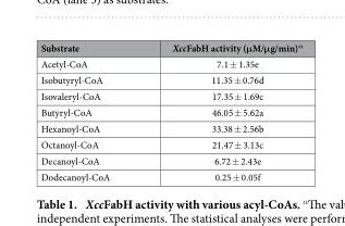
<table><thead><tr><td>Substrate</td><td>XccFabH activity (μM/μg/min)α</td></tr></thead><tbody><tr><td>Acetyl-CoA</td><td>7.1 ± 1.35e</td></tr><tr><td>Isobutyryl-CoA</td><td>11.35 ± 0.76d</td></tr><tr><td>Isovaleryl-CoA</td><td>17.35 ± 1.69c</td></tr><tr><td>Butyryl-CoA</td><td>46.05 ± 5.62a</td></tr><tr><td>Hexanoyl-CoA</td><td>33.38 ± 2.56b</td></tr><tr><td>Octanoyl-CoA</td><td>21.47 ± 3.13c</td></tr><tr><td>Decanoyl-CoA</td><td>6.72 ± 2.43e</td></tr><tr><td>Dodecanoyl-CoA</td><td>0.25 ± 0.05f</td></tr></tbody></table>